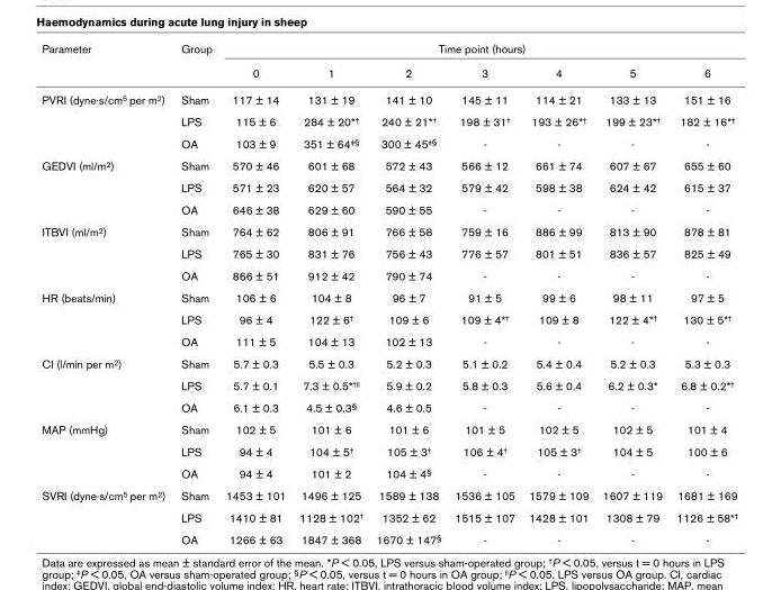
<table><thead><tr><td rowspan="2">Parameter</td><td rowspan="2">Group</td><td colspan="7">Time point (hours)</td></tr><tr><td>0</td><td>1</td><td>2</td><td>3</td><td>4</td><td>5</td><td>6</td></tr></thead><tbody><tr><td rowspan="3">PVRI (dyne·s/cm5 per m2)</td><td>Sham</td><td>117 ± 14</td><td>131 ± 19</td><td>141 ± 10</td><td>145 ± 11</td><td>114 ± 21</td><td>133 ± 13</td><td>151 ± 16</td></tr><tr><td>LPS</td><td>115 ± 6</td><td>284 ± 20*†</td><td>240 ± 21*†</td><td>198 ± 31†</td><td>193 ± 26*†</td><td>199 ± 23*†</td><td>182 ± 16*†</td></tr><tr><td>OA</td><td>103 ± 9</td><td>351 ± 64‡§</td><td>300 ± 45‡§</td><td>-</td><td>-</td><td>-</td><td>-</td></tr><tr><td rowspan="3">GEDVI (ml/m2)</td><td>Sham</td><td>570 ± 46</td><td>601 ± 68</td><td>572 ± 43</td><td>566 ± 12</td><td>661 ± 74</td><td>607 ± 67</td><td>655 ± 60</td></tr><tr><td>LPS</td><td>571 ± 23</td><td>620 ± 57</td><td>564 ± 32</td><td>579 ± 42</td><td>598 ± 38</td><td>624 ± 42</td><td>615 ± 37</td></tr><tr><td>OA</td><td>646 ± 38</td><td>629 ± 60</td><td>590 ± 55</td><td>-</td><td>-</td><td>-</td><td>-</td></tr><tr><td rowspan="3">ITBVI (ml/m2)</td><td>Sham</td><td>764 ± 62</td><td>806 ± 91</td><td>766 ± 58</td><td>759 ± 16</td><td>886 ± 99</td><td>813 ± 90</td><td>878 ± 81</td></tr><tr><td>LPS</td><td>765 ± 30</td><td>831 ± 76</td><td>756 ± 43</td><td>776 ± 57</td><td>801 ± 51</td><td>836 ± 57</td><td>825 ± 49</td></tr><tr><td>OA</td><td>866 ± 51</td><td>912 ± 42</td><td>790 ± 74</td><td>-</td><td>-</td><td>-</td><td>-</td></tr><tr><td rowspan="3">HR (beats/min)</td><td>Sham</td><td>106 ± 6</td><td>104 ± 8</td><td>96 ± 7</td><td>91 ± 5</td><td>99 ± 6</td><td>98 ± 11</td><td>97 ± 5</td></tr><tr><td>LPS</td><td>96 ± 4</td><td>122 ± 6†</td><td>109 ± 6</td><td>109 ± 4*†</td><td>109 ± 8</td><td>122 ± 4*†</td><td>130 ± 5*†</td></tr><tr><td>OA</td><td>111 ± 5</td><td>104 ± 13</td><td>102 ± 13</td><td>-</td><td>-</td><td>-</td><td>-</td></tr><tr><td rowspan="3">CI (l/min per m2)</td><td>Sham</td><td>5.7 ± 0.3</td><td>5.5 ± 0.3</td><td>5.2 ± 0.3</td><td>5.1 ± 0.2</td><td>5.4 ± 0.4</td><td>5.2 ± 0.3</td><td>5.3 ± 0.3</td></tr><tr><td>LPS</td><td>5.7 ± 0.1</td><td>7.3 ± 0.5*†ll</td><td>5.9 ± 0.2</td><td>5.8 ± 0.3</td><td>5.6 ± 0.4</td><td>6.2 ± 0.3*</td><td>6.8 ± 0.2*†</td></tr><tr><td>OA</td><td>6.1 ± 0.3</td><td>4.5 ± 0.3§</td><td>4.6 ± 0.5</td><td>-</td><td>-</td><td>-</td><td>-</td></tr><tr><td rowspan="3">MAP (mmHg)</td><td>Sham</td><td>102 ± 5</td><td>101 ± 6</td><td>101 ± 6</td><td>101 ± 5</td><td>102 ± 5</td><td>102 ± 5</td><td>101 ± 4</td></tr><tr><td>LPS</td><td>94 ± 4</td><td>104 ± 5†</td><td>105 ± 3†</td><td>106 ± 4†</td><td>105 ± 3†</td><td>104 ± 5</td><td>100 ± 6</td></tr><tr><td>OA</td><td>94 ± 4</td><td>101 ± 2</td><td>104 ± 4§</td><td>-</td><td>-</td><td>-</td><td>-</td></tr><tr><td rowspan="3">SVRI (dyne·s/cm5 per m2)</td><td>Sham</td><td>1453 ± 101</td><td>1496 ± 125</td><td>1589 ± 138</td><td>1536 ± 105</td><td>1579 ± 109</td><td>1607 ± 119</td><td>1681 ± 169</td></tr><tr><td>LPS</td><td>1410 ± 81</td><td>1128 ± 102†</td><td>1352 ± 62</td><td>1515 ± 107</td><td>1428 ± 101</td><td>1308 ± 79</td><td>1126 ± 58*†</td></tr><tr><td>OA</td><td>1266 ± 63</td><td>1847 ± 368</td><td>1670 ± 147§</td><td>-</td><td>-</td><td>-</td><td>-</td></tr></tbody></table>